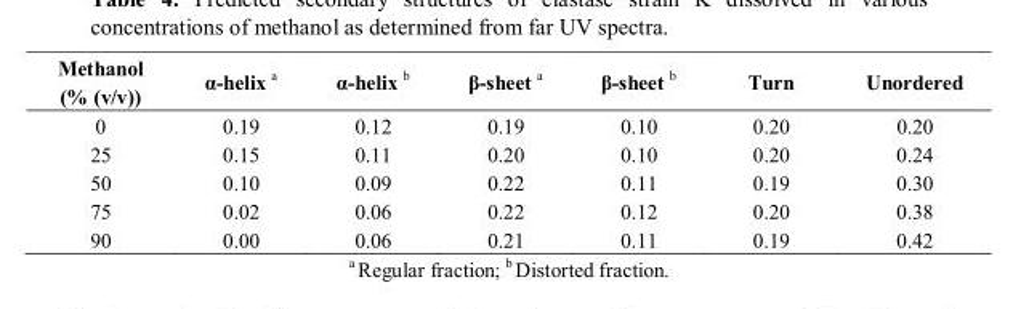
<table><thead><tr><td>Methanol (% (v/v))</td><td>α-helix a</td><td>α-helix b</td><td>β-sheet a</td><td>β-sheet b</td><td>Turn</td><td>Unordered</td></tr></thead><tbody><tr><td>0</td><td>0.19</td><td>0.12</td><td>0.19</td><td>0.10</td><td>0.20</td><td>0.20</td></tr><tr><td>25</td><td>0.15</td><td>0.11</td><td>0.20</td><td>0.10</td><td>0.20</td><td>0.24</td></tr><tr><td>50</td><td>0.10</td><td>0.09</td><td>0.22</td><td>0.11</td><td>0.19</td><td>0.30</td></tr><tr><td>75</td><td>0.02</td><td>0.06</td><td>0.22</td><td>0.12</td><td>0.20</td><td>0.38</td></tr><tr><td>90</td><td>0.00</td><td>0.06</td><td>0.21</td><td>0.11</td><td>0.19</td><td>0.42</td></tr></tbody></table>